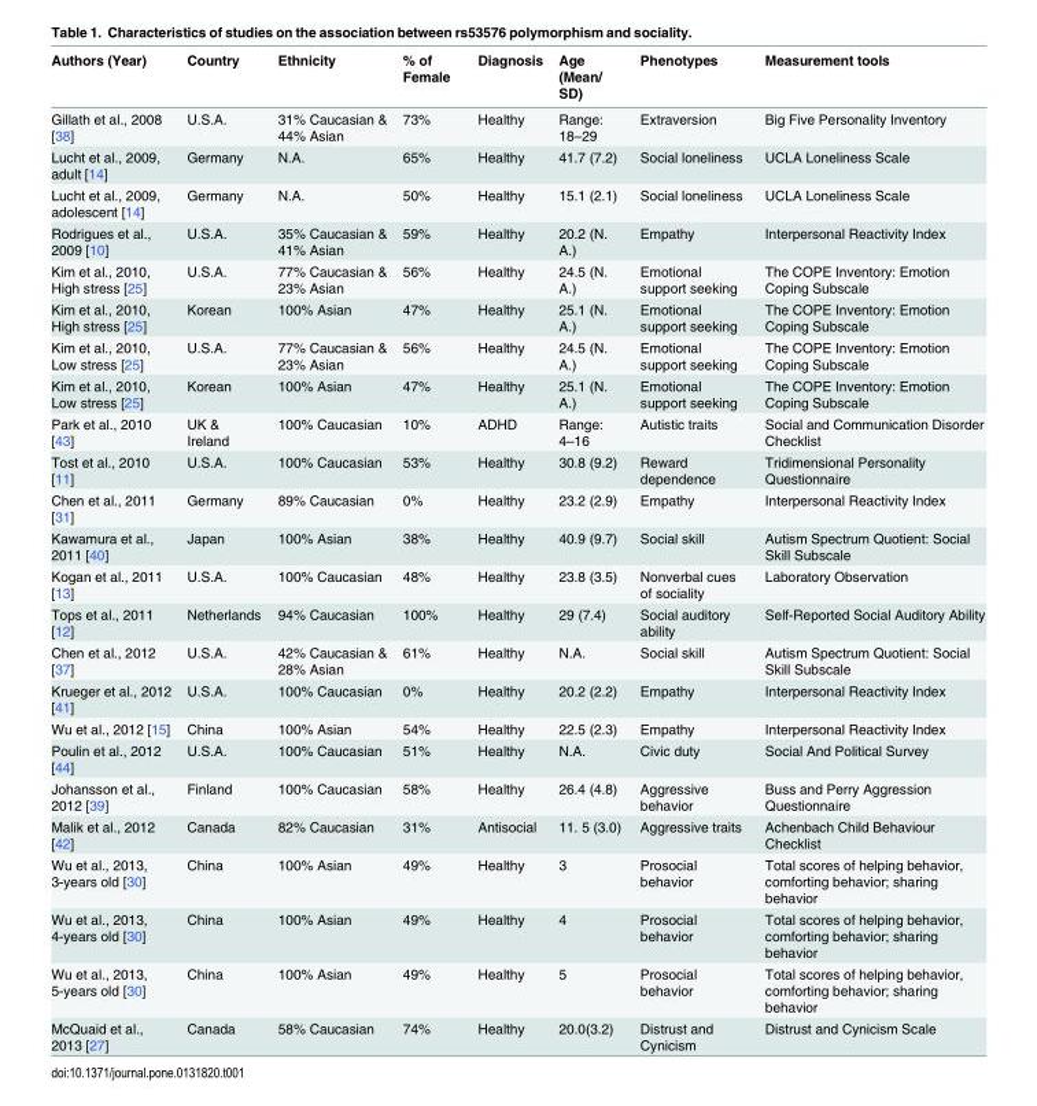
<table><thead><tr><td>Authors (Year)</td><td>Country</td><td>Ethnicity</td><td>% of Female</td><td>Diagnosis</td><td>Age (Mean/ SD)</td><td>Phenotypes</td><td>Measurement tools</td></tr></thead><tbody><tr><td>Gillath et al., 2008 [38]</td><td>U.S.A.</td><td>31% Caucasian &amp; 44% Asian</td><td>73%</td><td>Healthy</td><td>Range: 18–29</td><td>Extraversion</td><td>Big Five Personality Inventory</td></tr><tr><td>Lucht et al., 2009, adult [14]</td><td>Germany</td><td>N.A.</td><td>65%</td><td>Healthy</td><td>41.7 (7.2)</td><td>Social loneliness</td><td>UCLA Loneliness Scale</td></tr><tr><td>Lucht et al., 2009, adolescent [14]</td><td>Germany</td><td>N.A.</td><td>50%</td><td>Healthy</td><td>15.1 (2.1)</td><td>Social loneliness</td><td>UCLA Loneliness Scale</td></tr><tr><td>Rodrigues et al., 2009 [10]</td><td>U.S.A.</td><td>35% Caucasian &amp; 41% Asian</td><td>59%</td><td>Healthy</td><td>20.2 (N. A.)</td><td>Empathy</td><td>Interpersonal Reactivity Index</td></tr><tr><td>Kim et al., 2010, High stress [25]</td><td>U.S.A.</td><td>77% Caucasian &amp; 23% Asian</td><td>56%</td><td>Healthy</td><td>24.5 (N. A.)</td><td>Emotional support seeking</td><td>The COPE Inventory: Emotion Coping Subscale</td></tr><tr><td>Kim et al., 2010, High stress [25]</td><td>Korean</td><td>100% Asian</td><td>47%</td><td>Healthy</td><td>25.1 (N. A.)</td><td>Emotional support seeking</td><td>The COPE Inventory: Emotion Coping Subscale</td></tr><tr><td>Kim et al., 2010, Low stress [25]</td><td>U.S.A.</td><td>77% Caucasian &amp; 23% Asian</td><td>56%</td><td>Healthy</td><td>24.5 (N. A.)</td><td>Emotional support seeking</td><td>The COPE Inventory: Emotion Coping Subscale</td></tr><tr><td>Kim et al., 2010, Low stress [25]</td><td>Korean</td><td>100% Asian</td><td>47%</td><td>Healthy</td><td>25.1 (N. A.)</td><td>Emotional support seeking</td><td>The COPE Inventory: Emotion Coping Subscale</td></tr><tr><td>Park et al., 2010 [43]</td><td>UK &amp; Ireland</td><td>100% Caucasian</td><td>10%</td><td>ADHD</td><td>Range: 4–16</td><td>Autistic traits</td><td>Social and Communication Disorder Checklist</td></tr><tr><td>Tost et al., 2010 [11]</td><td>U.S.A.</td><td>100% Caucasian</td><td>53%</td><td>Healthy</td><td>30.8 (9.2)</td><td>Reward dependence</td><td>Tridimensional Personality Questionnaire</td></tr><tr><td>Chen et al., 2011 [31]</td><td>Germany</td><td>89% Caucasian</td><td>0%</td><td>Healthy</td><td>23.2 (2.9)</td><td>Empathy</td><td>Interpersonal Reactivity Index</td></tr><tr><td>Kawamura et al., 2011 [40]</td><td>Japan</td><td>100% Asian</td><td>38%</td><td>Healthy</td><td>40.9 (9.7)</td><td>Social skill</td><td>Autism Spectrum Quotient: Social Skill Subscale</td></tr><tr><td>Kogan et al., 2011 [13]</td><td>U.S.A.</td><td>100% Caucasian</td><td>48%</td><td>Healthy</td><td>23.8 (3.5)</td><td>Nonverbal cues of sociality</td><td>Laboratory Observation</td></tr><tr><td>Tops et al., 2011 [12]</td><td>Netherlands</td><td>94% Caucasian</td><td>100%</td><td>Healthy</td><td>29 (7.4)</td><td>Social auditory ability</td><td>Self-Reported Social Auditory Ability</td></tr><tr><td>Chen et al., 2012 [37]</td><td>U.S.A.</td><td>42% Caucasian &amp; 28% Asian</td><td>61%</td><td>Healthy</td><td>N.A.</td><td>Social skill</td><td>Autism Spectrum Quotient: Social Skill Subscale</td></tr><tr><td>Krueger et al., 2012 [41]</td><td>U.S.A.</td><td>100% Caucasian</td><td>0%</td><td>Healthy</td><td>20.2 (2.2)</td><td>Empathy</td><td>Interpersonal Reactivity Index</td></tr><tr><td>Wu et al., 2012 [15]</td><td>China</td><td>100% Asian</td><td>54%</td><td>Healthy</td><td>22.5 (2.3)</td><td>Empathy</td><td>Interpersonal Reactivity Index</td></tr><tr><td>Poulin et al., 2012 [44]</td><td>U.S.A.</td><td>100% Caucasian</td><td>51%</td><td>Healthy</td><td>N.A.</td><td>Civic duty</td><td>Social And Political Survey</td></tr><tr><td>Johansson et al., 2012 [39]</td><td>Finland</td><td>100% Caucasian</td><td>58%</td><td>Healthy</td><td>26.4 (4.8)</td><td>Aggressive behavior</td><td>Buss and Perry Aggression Questionnaire</td></tr><tr><td>Malik et al., 2012 [42]</td><td>Canada</td><td>82% Caucasian</td><td>31%</td><td>Antisocial</td><td>11. 5 (3.0)</td><td>Aggressive traits</td><td>Achenbach Child Behaviour Checklist</td></tr><tr><td>Wu et al., 2013, 3-years old [30]</td><td>China</td><td>100% Asian</td><td>49%</td><td>Healthy</td><td>3</td><td>Prosocial behavior</td><td>Total scores of helping behavior, comforting behavior; sharing behavior</td></tr><tr><td>Wu et al., 2013, 4-years old [30]</td><td>China</td><td>100% Asian</td><td>49%</td><td>Healthy</td><td>4</td><td>Prosocial behavior</td><td>Total scores of helping behavior, comforting behavior; sharing behavior</td></tr><tr><td>Wu et al., 2013, 5-years old [30]</td><td>China</td><td>100% Asian</td><td>49%</td><td>Healthy</td><td>5</td><td>Prosocial behavior</td><td>Total scores of helping behavior, comforting behavior; sharing behavior</td></tr><tr><td>McQuaid et al., 2013 [27]</td><td>Canada</td><td>58% Caucasian</td><td>74%</td><td>Healthy</td><td>20.0(3.2)</td><td>Distrust and Cynicism</td><td>Distrust and Cynicism Scale</td></tr></tbody></table>